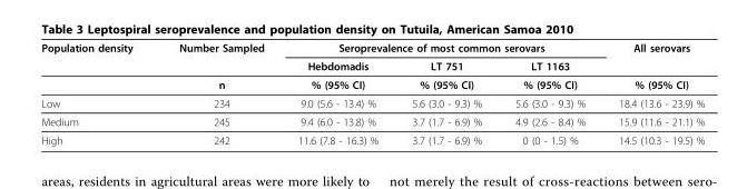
<table><thead><tr><td rowspan="2">Population density</td><td rowspan="2">Number Sampled</td><td colspan="3">Seroprevalence of most common serovars</td><td rowspan="2">All serovars</td></tr><tr><td>Hebdomadis</td><td>LT 751</td><td>LT 1163</td></tr></thead><tbody><tr><td></td><td>n</td><td>% (95% CI)</td><td>% (95% CI)</td><td>% (95% CI)</td><td>% (95% CI)</td></tr><tr><td>Low</td><td>234</td><td>9.0 (5.6 - 13.4) %</td><td>5.6 (3.0 - 9.3) %</td><td>5.6 (3.0 - 9.3) %</td><td>18.4 (13.6 - 23.9) %</td></tr><tr><td>Medium</td><td>245</td><td>9.4 (6.0 - 13.8) %</td><td>3.7 (1.7 - 6.9) %</td><td>4.9 (2.6 - 8.4) %</td><td>15.9 (11.6 - 21.1) %</td></tr><tr><td>High</td><td>242</td><td>11.6 (7.8 - 16.3) %</td><td>3.7 (1.7 - 6.9) %</td><td>0 (0 - 1.5) %</td><td>14.5 (10.3 - 19.5) %</td></tr></tbody></table>